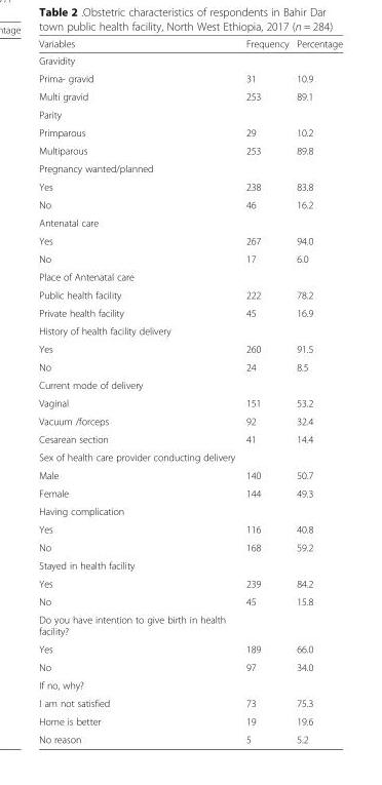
<table><thead><tr><td>Variables</td><td>Frequency</td><td>Percentage</td></tr></thead><tbody><tr><td colspan="3">Gravidity</td></tr><tr><td>Prima- gravid</td><td>31</td><td>10.9</td></tr><tr><td>Multi gravid</td><td>253</td><td>89.1</td></tr><tr><td colspan="3">Parity</td></tr><tr><td>Primparous</td><td>29</td><td>10.2</td></tr><tr><td>Multiparous</td><td>253</td><td>89.8</td></tr><tr><td colspan="3">Pregnancy wanted/planned</td></tr><tr><td>Yes</td><td>238</td><td>83.8</td></tr><tr><td>No</td><td>46</td><td>16.2</td></tr><tr><td colspan="3">Antenatal care</td></tr><tr><td>Yes</td><td>267</td><td>94.0</td></tr><tr><td>No</td><td>17</td><td>6.0</td></tr><tr><td colspan="3">Place of Antenatal care</td></tr><tr><td>Public health facility</td><td>222</td><td>78.2</td></tr><tr><td>Private health facility</td><td>45</td><td>16.9</td></tr><tr><td colspan="3">History of health facility delivery</td></tr><tr><td>Yes</td><td>260</td><td>91.5</td></tr><tr><td>No</td><td>24</td><td>8.5</td></tr><tr><td colspan="3">Current mode of delivery</td></tr><tr><td>Vaginal</td><td>151</td><td>53.2</td></tr><tr><td>Vacuum /forceps</td><td>92</td><td>32.4</td></tr><tr><td>Cesarean section</td><td>41</td><td>14.4</td></tr><tr><td colspan="3">Sex of health care provider conducting delivery</td></tr><tr><td>Male</td><td>140</td><td>50.7</td></tr><tr><td>Female</td><td>144</td><td>49.3</td></tr><tr><td colspan="3">Having complication</td></tr><tr><td>Yes</td><td>116</td><td>40.8</td></tr><tr><td>No</td><td>168</td><td>59.2</td></tr><tr><td colspan="3">Stayed in health facility</td></tr><tr><td>Yes</td><td>239</td><td>84.2</td></tr><tr><td>No</td><td>45</td><td>15.8</td></tr><tr><td colspan="3">Do you have intention to give birth in health facility?</td></tr><tr><td>Yes</td><td>189</td><td>66.0</td></tr><tr><td>No</td><td>97</td><td>34.0</td></tr><tr><td colspan="3">If no, why?</td></tr><tr><td>I am not satisfied</td><td>73</td><td>75.3</td></tr><tr><td>Home is better</td><td>19</td><td>19.6</td></tr><tr><td>No reason</td><td>5</td><td>5.2</td></tr></tbody></table>